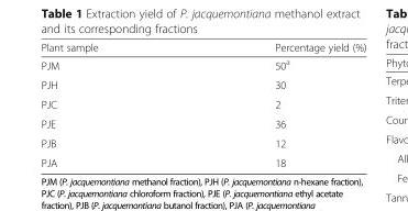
<table><thead><tr><td>Plant sample</td><td>Percentage yield (%)</td></tr></thead><tbody><tr><td>PJM</td><td>50<sup>a</sup></td></tr><tr><td>PJH</td><td>30</td></tr><tr><td>PJC</td><td>2</td></tr><tr><td>PJE</td><td>36</td></tr><tr><td>PJB</td><td>12</td></tr><tr><td>PJA</td><td>18</td></tr></tbody></table>